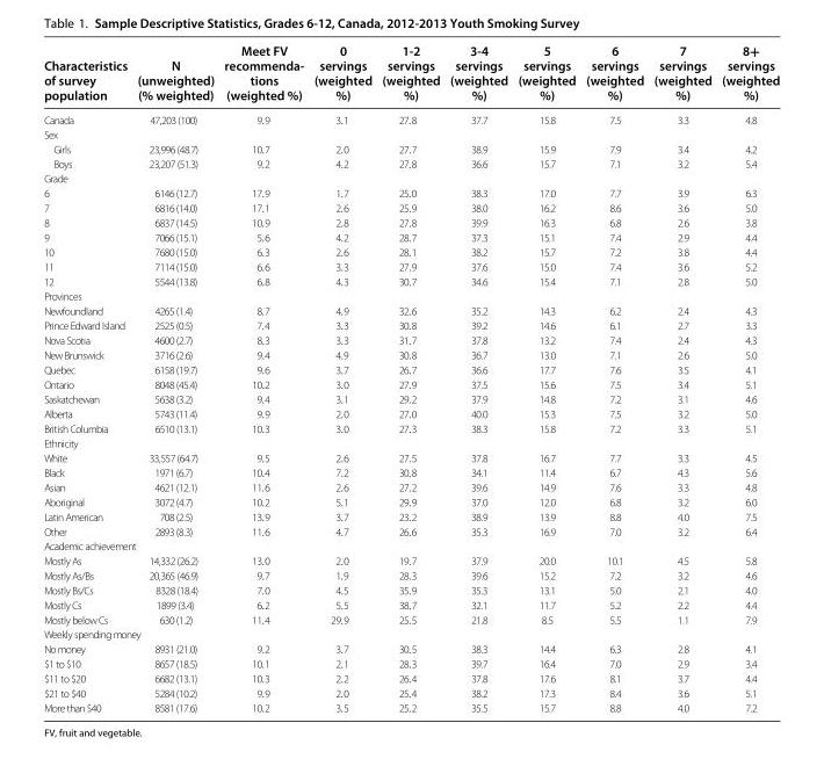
<table><thead><tr><td>Characteristics of survey population</td><td>N (unweighted) (% weighted)</td><td>Meet FV recommenda- tions (weighted %)</td><td>0 servings (weighted %)</td><td>1-2 servings (weighted %)</td><td>3-4 servings (weighted %)</td><td>5 servings (weighted %)</td><td>6 servings (weighted %)</td><td>7 servings (weighted %)</td><td>8+ servings (weighted %)</td></tr></thead><tbody><tr><td>Canada</td><td>47,203(100)</td><td>9.9</td><td>3.1</td><td>27.8</td><td>37.7</td><td>15.8</td><td>7.5</td><td>3.3</td><td>4.8</td></tr><tr><td colspan="10">Sex</td></tr><tr><td>Girls</td><td>23,996(48.7)</td><td>10.7</td><td>2.0</td><td>27.7</td><td>38.9</td><td>15.9</td><td>7.9</td><td>3.4</td><td>4.2</td></tr><tr><td>Boys</td><td>23,207(51.3)</td><td>9.2</td><td>4.2</td><td>27.8</td><td>36.6</td><td>15.7</td><td>7.1</td><td>3.2</td><td>5.4</td></tr><tr><td colspan="10">Grade</td></tr><tr><td>6</td><td>6146(12.7)</td><td>17.9</td><td>1.7</td><td>25.0</td><td>38.3</td><td>17.0</td><td>7.7</td><td>3.9</td><td>6.3</td></tr><tr><td>7</td><td>6816(14.0)</td><td>17.1</td><td>2.6</td><td>25.9</td><td>38.0</td><td>16.2</td><td>8.6</td><td>3.6</td><td>5.0</td></tr><tr><td>8</td><td>6837(14.5)</td><td>10.9</td><td>2.8</td><td>27.8</td><td>39.9</td><td>16.3</td><td>6.8</td><td>2.6</td><td>3.8</td></tr><tr><td>9</td><td>7066(15.1)</td><td>5.6</td><td>4.2</td><td>28.7</td><td>37.3</td><td>15.1</td><td>7.4</td><td>2.9</td><td>4.4</td></tr><tr><td>10</td><td>7680(15.0)</td><td>6.3</td><td>2.6</td><td>28.1</td><td>38.2</td><td>15.7</td><td>7.2</td><td>3.8</td><td>4.4</td></tr><tr><td>11</td><td>7114(15.0)</td><td>6.6</td><td>3.3</td><td>27.9</td><td>37.6</td><td>15.0</td><td>7.4</td><td>3.6</td><td>5.2</td></tr><tr><td>12</td><td>5544(13.8)</td><td>6.8</td><td>4.3</td><td>30.7</td><td>34.6</td><td>15.4</td><td>7.1</td><td>2.8</td><td>5.0</td></tr><tr><td colspan="10">Provinces</td></tr><tr><td>Newfoundland</td><td>4265(1.4)</td><td>8.7</td><td>4.9</td><td>32.6</td><td>35.2</td><td>14.3</td><td>6.2</td><td>2.4</td><td>4.3</td></tr><tr><td>PrinceEdwardIsland</td><td>2525(0.5)</td><td>7.4</td><td>3.3</td><td>30.8</td><td>39.2</td><td>14.6</td><td>6.1</td><td>2.7</td><td>3.3</td></tr><tr><td>NovaScotia</td><td>4600(2.7)</td><td>8.3</td><td>3.3</td><td>31.7</td><td>37.8</td><td>13.2</td><td>7.4</td><td>2.4</td><td>4.3</td></tr><tr><td>NewBrunswick</td><td>3716(2.6)</td><td>9.4</td><td>4.9</td><td>30.8</td><td>36.7</td><td>13.0</td><td>7.1</td><td>2.6</td><td>5.0</td></tr><tr><td>Quebec</td><td>6158(19.7)</td><td>9.6</td><td>3.7</td><td>26.7</td><td>36.6</td><td>17.7</td><td>7.6</td><td>3.5</td><td>4.1</td></tr><tr><td>Ontario</td><td>8048(45.4)</td><td>10.2</td><td>3.0</td><td>27.9</td><td>37.5</td><td>15.6</td><td>7.5</td><td>3.4</td><td>5.1</td></tr><tr><td>Saskatchewan</td><td>5638(3.2)</td><td>9.4</td><td>3.1</td><td>29.2</td><td>37.9</td><td>14.8</td><td>7.2</td><td>3.1</td><td>4.6</td></tr><tr><td>Alberta</td><td>5743(11.4)</td><td>9.9</td><td>2.0</td><td>27.0</td><td>40.0</td><td>15.3</td><td>7.5</td><td>3.2</td><td>5.0</td></tr><tr><td>BritishColumbia</td><td>6510(13.1)</td><td>10.3</td><td>3.0</td><td>27.3</td><td>38.3</td><td>15.8</td><td>7.2</td><td>3.3</td><td>5.1</td></tr><tr><td colspan="10">Ethnicity</td></tr><tr><td>White</td><td>33,557(64.7)</td><td>9.5</td><td>2.6</td><td>27.5</td><td>37.8</td><td>16.7</td><td>7.7</td><td>3.3</td><td>4.5</td></tr><tr><td>Black</td><td>1971(6.7)</td><td>10.4</td><td>7.2</td><td>30.8</td><td>34.1</td><td>11.4</td><td>6.7</td><td>4.3</td><td>5.6</td></tr><tr><td>Asian</td><td>4621(12.1)</td><td>11.6</td><td>2.6</td><td>27.2</td><td>39.6</td><td>14.9</td><td>7.6</td><td>3.3</td><td>4.8</td></tr><tr><td>Aboriginal</td><td>3072(4.7)</td><td>10.2</td><td>5.1</td><td>29.9</td><td>37.0</td><td>12.0</td><td>6.8</td><td>3.2</td><td>6.0</td></tr><tr><td>LatinAmerican</td><td>708(2.5)</td><td>13.9</td><td>3.7</td><td>23.2</td><td>38.9</td><td>13.9</td><td>8.8</td><td>4.0</td><td>7.5</td></tr><tr><td>Other</td><td>2893(8.3)</td><td>11.6</td><td>4.7</td><td>26.6</td><td>35.3</td><td>16.9</td><td>7.0</td><td>3.2</td><td>6.4</td></tr><tr><td colspan="10">Academicachievement</td></tr><tr><td>MostlyAs</td><td>14,332(26.2)</td><td>13.0</td><td>2.0</td><td>19.7</td><td>37.9</td><td>20.0</td><td>10.1</td><td>4.5</td><td>5.8</td></tr><tr><td>MostlyAs/Bs</td><td>20,365(46.9)</td><td>9.7</td><td>1.9</td><td>28.3</td><td>39.6</td><td>15.2</td><td>7.2</td><td>3.2</td><td>4.6</td></tr><tr><td>MostlyBs/Cs</td><td>8328(18.4)</td><td>7.0</td><td>4.5</td><td>35.9</td><td>35.3</td><td>13.1</td><td>5.0</td><td>2.1</td><td>4.0</td></tr><tr><td>MostlyCs</td><td>1899(3.4)</td><td>6.2</td><td>5.5</td><td>38.7</td><td>32.1</td><td>11.7</td><td>5.2</td><td>2.2</td><td>4.4</td></tr><tr><td>MostlybelowCs</td><td>630(1.2)</td><td>11.4</td><td>29.9</td><td>25.5</td><td>21.8</td><td>8.5</td><td>5.5</td><td>1.1</td><td>7.9</td></tr><tr><td colspan="10">Weeklyspendingmoney</td></tr><tr><td>Nomoney</td><td>8931(21.0)</td><td>9.2</td><td>3.7</td><td>30.5</td><td>38.3</td><td>14.4</td><td>6.3</td><td>2.8</td><td>4.1</td></tr><tr><td>$1to$10</td><td>8657(18.5)</td><td>10.1</td><td>2.1</td><td>28.3</td><td>39.7</td><td>16.4</td><td>7.0</td><td>2.9</td><td>3.4</td></tr><tr><td>$11to$20</td><td>6682(13.1)</td><td>10.3</td><td>2.2</td><td>26.4</td><td>37.8</td><td>17.6</td><td>8.1</td><td>3.7</td><td>4.4</td></tr><tr><td>$21to$40</td><td>5284(10.2)</td><td>9.9</td><td>2.0</td><td>25.4</td><td>38.2</td><td>17.3</td><td>8.4</td><td>3.6</td><td>5.1</td></tr><tr><td>Morethan$40</td><td>8581(17.6)</td><td>10.2</td><td>3.5</td><td>25.2</td><td>35.5</td><td>15.7</td><td>8.8</td><td>4.0</td><td>7.2</td></tr></tbody></table>